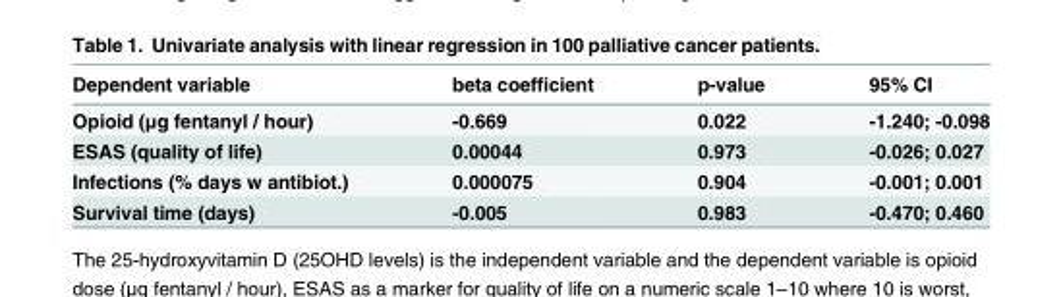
<table><thead><tr><td>Dependent variable</td><td>beta coefficient</td><td>p-value</td><td>95% CI</td></tr></thead><tbody><tr><td>Opioid (μg fentanyl / hour)</td><td>-0.669</td><td>0.022</td><td>-1.240; -0.098</td></tr><tr><td>ESAS (quality of life)</td><td>0.00044</td><td>0.973</td><td>-0.026; 0.027</td></tr><tr><td>Infections (% days w antibiot.)</td><td>0.000075</td><td>0.904</td><td>-0.001; 0.001</td></tr><tr><td>Survival time (days)</td><td>-0.005</td><td>0.983</td><td>-0.470; 0.460</td></tr></tbody></table>